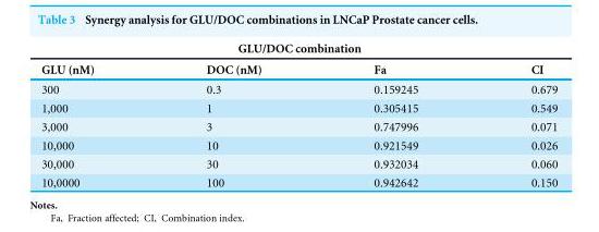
<table><thead><tr><td colspan="4">GLU/DOC combination</td></tr><tr><td>GLU (nM)</td><td>DOC (nM)</td><td>Fa</td><td>CI</td></tr></thead><tbody><tr><td>300</td><td>0.3</td><td>0.159245</td><td>0.679</td></tr><tr><td>1,000</td><td>1</td><td>0.305415</td><td>0.549</td></tr><tr><td>3,000</td><td>3</td><td>0.747996</td><td>0.071</td></tr><tr><td>10,000</td><td>10</td><td>0.921549</td><td>0.026</td></tr><tr><td>30,000</td><td>30</td><td>0.932034</td><td>0.060</td></tr><tr><td>10,0000</td><td>100</td><td>0.942642</td><td>0.150</td></tr></tbody></table>